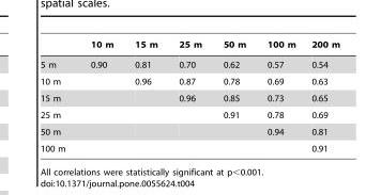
<table><thead><tr><td></td><td>10 m</td><td>15 m</td><td>25 m</td><td>50 m</td><td>100 m</td><td>200 m</td></tr></thead><tbody><tr><td>5 m</td><td>0.90</td><td>0.81</td><td>0.70</td><td>0.62</td><td>0.57</td><td>0.54</td></tr><tr><td>10 m</td><td></td><td>0.96</td><td>0.87</td><td>0.78</td><td>0.69</td><td>0.63</td></tr><tr><td>15 m</td><td></td><td></td><td>0.96</td><td>0.85</td><td>0.73</td><td>0.65</td></tr><tr><td>25 m</td><td></td><td></td><td></td><td>0.91</td><td>0.78</td><td>0.69</td></tr><tr><td>50 m</td><td></td><td></td><td></td><td></td><td>0.94</td><td>0.81</td></tr><tr><td>100 m</td><td></td><td></td><td></td><td></td><td></td><td>0.91</td></tr></tbody></table>